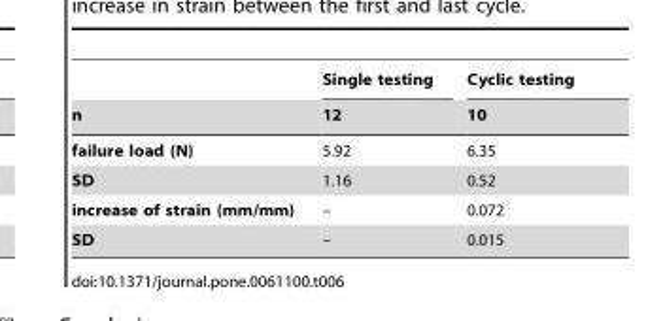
<table><thead><tr><td rowspan="2">n</td><td rowspan="2">Single testing 12</td><td rowspan="2">Cyclic testing 10</td></tr><tr></tr></thead><tbody><tr><td>failure load (N)</td><td>5.92</td><td>6.35</td></tr><tr><td>SD</td><td>1.16</td><td>0.52</td></tr><tr><td>increase of strain (mm/mm)</td><td>–</td><td>0.072</td></tr><tr><td>SD</td><td>–</td><td>0.015</td></tr></tbody></table>